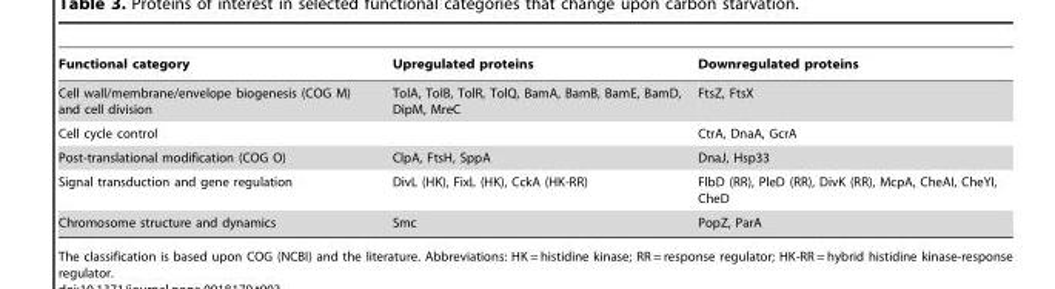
<table><thead><tr><td>Functional category</td><td>Upregulated proteins</td><td>Downregulated proteins</td></tr></thead><tbody><tr><td>Cell wall/membrane/envelope biogenesis (COG M) and cell division</td><td>TolA, TolB, TolR, TolQ, BamA, BamB, BamE, BamD, DipM, MreC</td><td>FtsZ, FtsX</td></tr><tr><td>Cell cycle control</td><td></td><td>CtrA, DnaA, GcrA</td></tr><tr><td>Post-translational modification (COG O)</td><td>ClpA, FtsH, SppA</td><td>DnaJ, Hsp33</td></tr><tr><td>Signal transduction and gene regulation</td><td>DivL (HK), FixL (HK), CckA (HK-RR)</td><td>FlbD (RR), PleD (RR), DivK (RR), McpA, CheAI, CheYI, CheD</td></tr><tr><td>Chromosome structure and dynamics</td><td>Smc</td><td>PopZ, ParA</td></tr></tbody></table>